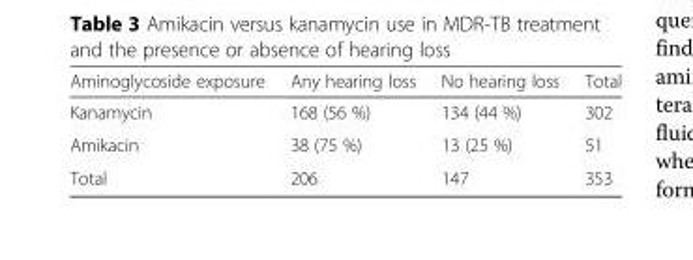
<table><thead><tr><td>Aminoglycoside exposure</td><td>Any hearing loss</td><td>No hearing loss</td><td>Total</td></tr></thead><tbody><tr><td>Kanamycin</td><td>168 (56 %)</td><td>134 (44 %)</td><td>302</td></tr><tr><td>Amikacin</td><td>38 (75 %)</td><td>13 (25 %)</td><td>51</td></tr><tr><td>Total</td><td>206</td><td>147</td><td>353</td></tr></tbody></table>